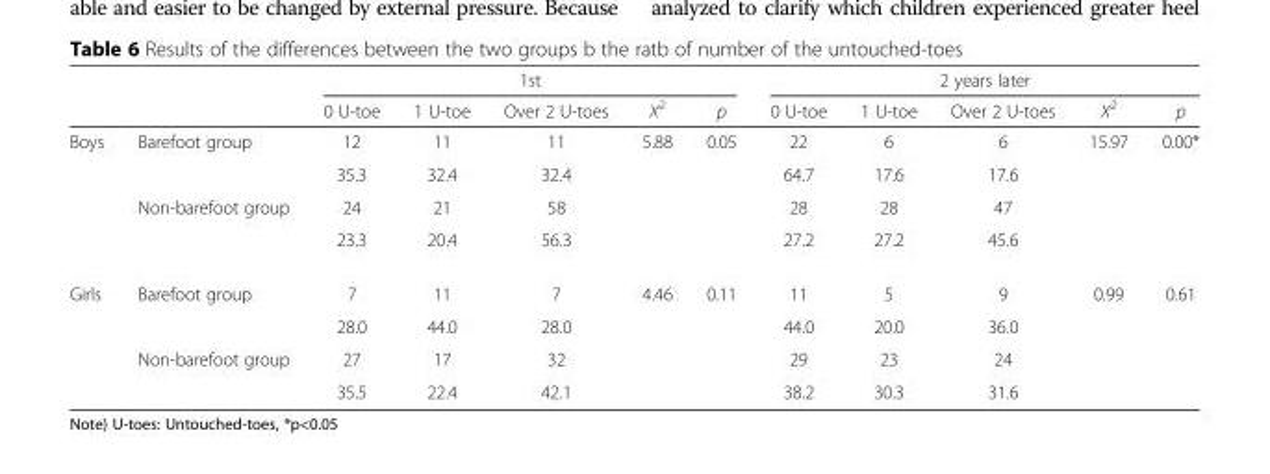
<table><thead><tr><td rowspan="2"></td><td rowspan="2"></td><td colspan="5">1st</td><td colspan="5">2 years later</td></tr><tr><td>0 U-toe</td><td>1 U-toe</td><td>Over 2 U-toes</td><td>X<sup>2</sup></td><td>p</td><td>0 U-toe</td><td>1 U-toe</td><td>Over 2 U-toes</td><td>X<sup>2</sup></td><td>p</td></tr></thead><tbody><tr><td rowspan="4">Boys</td><td>Barefoot group</td><td>12</td><td>11</td><td>11</td><td>5.88</td><td>0.05</td><td>22</td><td>6</td><td>6</td><td>15.97</td><td>0.00*</td></tr><tr><td></td><td>35.3</td><td>32.4</td><td>32.4</td><td></td><td></td><td>64.7</td><td>17.6</td><td>17.6</td><td></td><td></td></tr><tr><td>Non-barefoot group</td><td>24</td><td>21</td><td>58</td><td></td><td></td><td>28</td><td>28</td><td>47</td><td></td><td></td></tr><tr><td></td><td>23.3</td><td>20.4</td><td>56.3</td><td></td><td></td><td>27.2</td><td>27.2</td><td>45.6</td><td></td><td></td></tr><tr><td rowspan="4">Girls</td><td>Barefoot group</td><td>7</td><td>11</td><td>7</td><td>4.46</td><td>0.11</td><td>11</td><td>5</td><td>9</td><td>0.99</td><td>0.61</td></tr><tr><td></td><td>28.0</td><td>44.0</td><td>28.0</td><td></td><td></td><td>44.0</td><td>20.0</td><td>36.0</td><td></td><td></td></tr><tr><td>Non-barefoot group</td><td>27</td><td>17</td><td>32</td><td></td><td></td><td>29</td><td>23</td><td>24</td><td></td><td></td></tr><tr><td></td><td>35.5</td><td>22.4</td><td>42.1</td><td></td><td></td><td>38.2</td><td>30.3</td><td>31.6</td><td></td><td></td></tr></tbody></table>